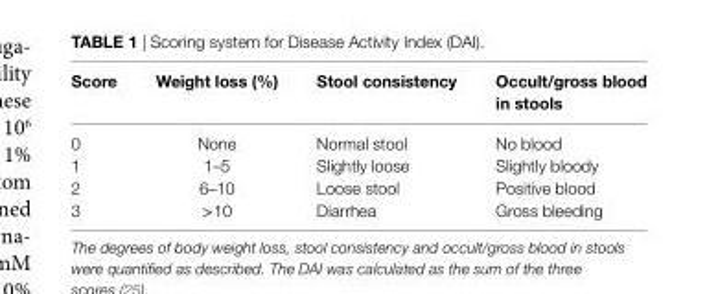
<table><thead><tr><td>score</td><td>Weight loss (%)</td><td>stool consistency</td><td>Occult/gross blood in stools</td></tr></thead><tbody><tr><td>0</td><td>None</td><td>Normal stool</td><td>No blood</td></tr><tr><td>1</td><td>1–5</td><td>Slightly loose</td><td>Slightly bloody</td></tr><tr><td>2</td><td>6–10</td><td>Loose stool</td><td>Positive blood</td></tr><tr><td>3</td><td>&gt;10</td><td>Diarrhea</td><td>Gross bleeding</td></tr></tbody></table>